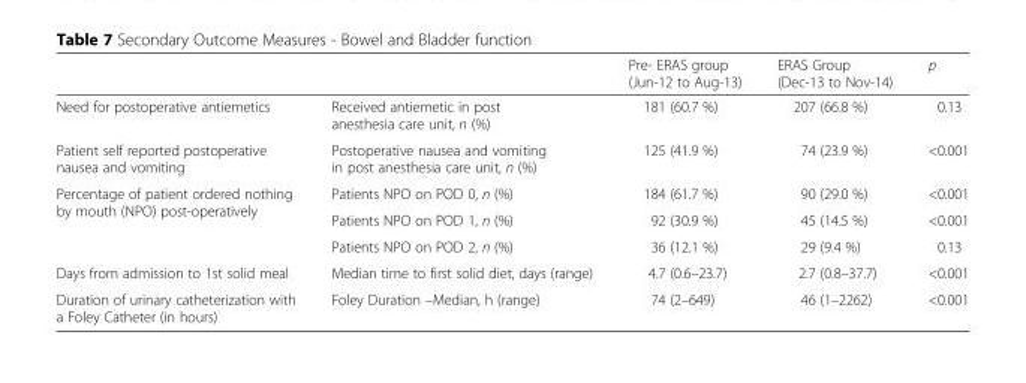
<table><thead><tr><td></td><td></td><td>Pre- ERAS group (Jun-12 to Aug-13)</td><td>ERAS Group (Dec-13 to Nov-14)</td><td>p</td></tr></thead><tbody><tr><td>Need for postoperative antiemetics</td><td>Received antiemetic in post anesthesia care unit, n (%)</td><td>181 (60.7 %)</td><td>207 (66.8 %)</td><td>0.13</td></tr><tr><td>Patient self reported postoperative nausea and vomiting</td><td>Postoperative nausea and vomiting in post anesthesia care unit, n (%)</td><td>125 (41.9 %)</td><td>74 (23.9 %)</td><td>&lt;0.001</td></tr><tr><td rowspan="3">Percentage of patient ordered nothing by mouth (NPO) post-operatively</td><td>Patients NPO on POD 0, n (%)</td><td>184 (61.7 %)</td><td>90 (29.0 %)</td><td>&lt;0.001</td></tr><tr><td>Patients NPO on POD 1, n (%)</td><td>92 (30.9 %)</td><td>45 (14.5 %)</td><td>&lt;0.001</td></tr><tr><td>Patients NPO on POD 2, n (%)</td><td>36 (12.1 %)</td><td>29 (9.4 %)</td><td>0.13</td></tr><tr><td>Days from admission to 1st solid meal</td><td>Median time to first solid diet, days (range)</td><td>4.7 (0.6–23.7)</td><td>2.7 (0.8–37.7)</td><td>&lt;0.001</td></tr><tr><td>Duration of urinary catheterization with a Foley Catheter (in hours)</td><td>Foley Duration –Median, h (range)</td><td>74 (2–649)</td><td>46 (1–2262)</td><td>&lt;0.001</td></tr></tbody></table>